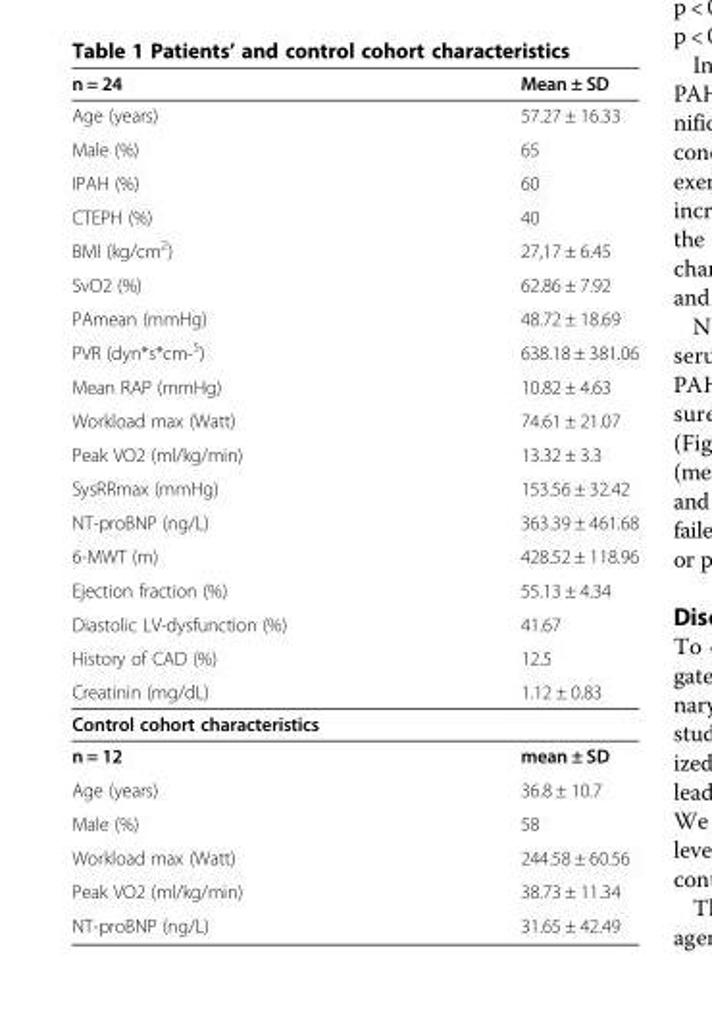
<table><thead><tr><td>n = 24</td><td>Mean ± SD</td></tr></thead><tbody><tr><td>Age (years)</td><td>57.27 ± 16.33</td></tr><tr><td>Male (%)</td><td>65</td></tr><tr><td>IPAH (%)</td><td>60</td></tr><tr><td>CTEPH (%)</td><td>40</td></tr><tr><td>BMI (kg/cm<sup>2</sup>)</td><td>27,17 ± 6.45</td></tr><tr><td>SvO2 (%)</td><td>62.86 ± 7.92</td></tr><tr><td>PAmean (mmHg)</td><td>48.72 ± 18.69</td></tr><tr><td>PVR (dyn*s*cm-<sup>5</sup>)</td><td>638.18 ± 381.06</td></tr><tr><td>Mean RAP (mmHg)</td><td>10.82 ± 4.63</td></tr><tr><td>Workload max (Watt)</td><td>74.61 ± 21.07</td></tr><tr><td>Peak VO2 (ml/kg/min)</td><td>13.32 ± 3.3</td></tr><tr><td>SysRRmax (mmHg)</td><td>153.56 ± 32.42</td></tr><tr><td>NT-proBNP (ng/L)</td><td>363.39 ± 461.68</td></tr><tr><td>6-MWT (m)</td><td>428.52 ± 118.96</td></tr><tr><td>Ejection fraction (%)</td><td>55.13 ± 4.34</td></tr><tr><td>Diastolic LV-dysfunction (%)</td><td>41.67</td></tr><tr><td>History of CAD (%)</td><td>12.5</td></tr><tr><td>Creatinin (mg/dL)</td><td>1.12 ± 0.83</td></tr><tr><td colspan="2">Control cohort characteristics</td></tr><tr><td>n = 12</td><td>mean ± SD</td></tr><tr><td>Age (years)</td><td>36.8 ± 10.7</td></tr><tr><td>Male (%)</td><td>58</td></tr><tr><td>Workload max (Watt)</td><td>244.58 ± 60.56</td></tr><tr><td>Peak VO2 (ml/kg/min)</td><td>38.73 ± 11.34</td></tr><tr><td>NT-proBNP (ng/L)</td><td>31.65 ± 42.49</td></tr></tbody></table>